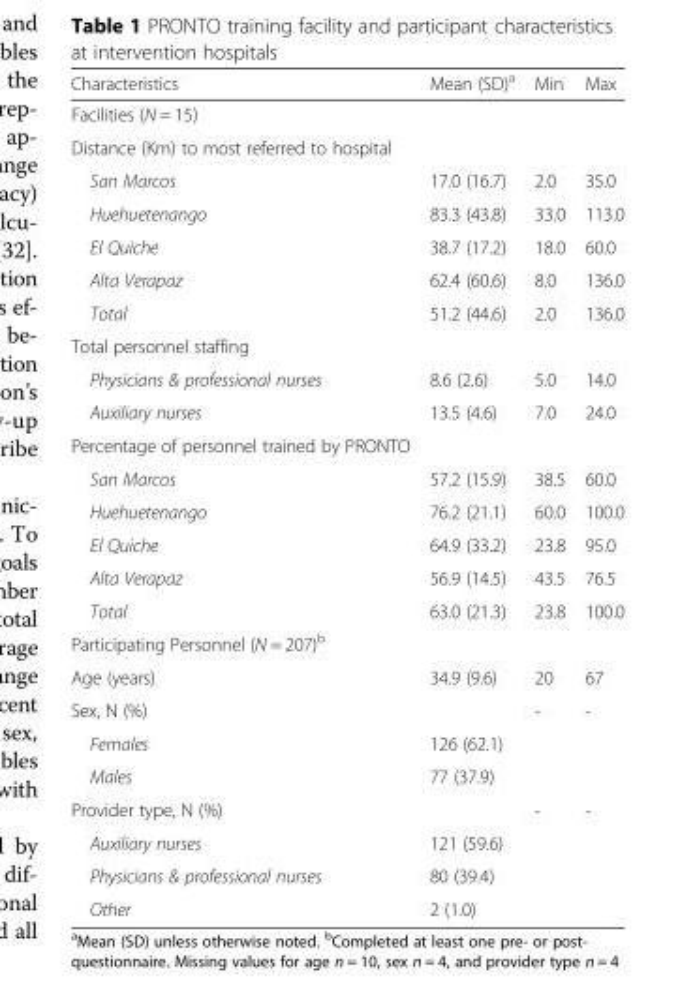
<table><thead><tr><td>Characteristics</td><td>Mean (SD)<sup>a</sup></td><td>Min</td><td>Max</td></tr></thead><tbody><tr><td colspan="4">Facilities (N = 15)</td></tr><tr><td colspan="4">Distance (Km) to most referred to hospital</td></tr><tr><td>San Marcos</td><td>17.0 (16.7)</td><td>2.0</td><td>35.0</td></tr><tr><td>Huehuetenango</td><td>83.3 (43.8)</td><td>33.0</td><td>113.0</td></tr><tr><td>El Quiche</td><td>38.7 (17.2)</td><td>18.0</td><td>60.0</td></tr><tr><td>Alta Verapaz</td><td>62.4 (60.6)</td><td>8.0</td><td>136.0</td></tr><tr><td>Total</td><td>51.2 (44.6)</td><td>2.0</td><td>136.0</td></tr><tr><td colspan="4">Total personnel staffing</td></tr><tr><td>Physicians &amp; professional nurses</td><td>8.6 (2.6)</td><td>5.0</td><td>14.0</td></tr><tr><td>Auxiliary nurses</td><td>13.5 (4.6)</td><td>7.0</td><td>24.0</td></tr><tr><td colspan="4">Percentage of personnel trained by PRONTO</td></tr><tr><td>San Marcos</td><td>57.2 (15.9)</td><td>38.5</td><td>60.0</td></tr><tr><td>Huehuetenango</td><td>76.2 (21.1)</td><td>60.0</td><td>100.0</td></tr><tr><td>El Quiche</td><td>64.9 (33.2)</td><td>23.8</td><td>95.0</td></tr><tr><td>Alta Verapaz</td><td>56.9 (14.5)</td><td>43.5</td><td>76.5</td></tr><tr><td>Total</td><td>63.0 (21.3)</td><td>23.8</td><td>100.0</td></tr><tr><td colspan="4">Participating Personnel (N = 207)<sup>b</sup></td></tr><tr><td>Age (years)</td><td>34.9 (9.6)</td><td>20</td><td>67</td></tr><tr><td>Sex, N (%)</td><td></td><td>-</td><td>-</td></tr><tr><td>Females</td><td>126 (62.1)</td><td></td><td></td></tr><tr><td>Males</td><td>77 (37.9)</td><td></td><td></td></tr><tr><td>Provider type, N (%)</td><td></td><td>-</td><td>-</td></tr><tr><td>Auxiliary nurses</td><td>121 (59.6)</td><td></td><td></td></tr><tr><td>Physicians &amp; professional nurses</td><td>80 (39.4)</td><td></td><td></td></tr><tr><td>Other</td><td>2 (1.0)</td><td></td><td></td></tr></tbody></table>